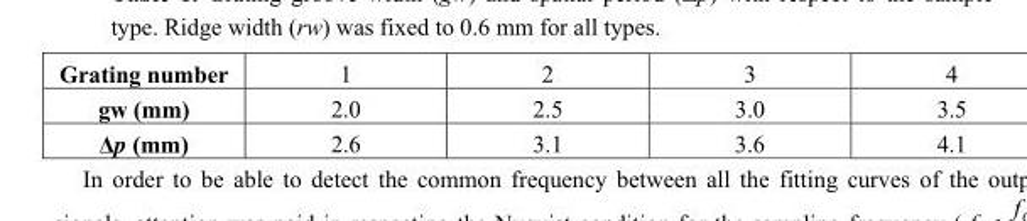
<table><thead><tr><td>Grating number</td><td>1</td><td>2</td><td>3</td><td>4</td></tr></thead><tbody><tr><td>gw (mm)</td><td>2.0</td><td>2.5</td><td>3.0</td><td>3.5</td></tr><tr><td>Δp (mm)</td><td>2.6</td><td>3.1</td><td>3.6</td><td>4.1</td></tr></tbody></table>